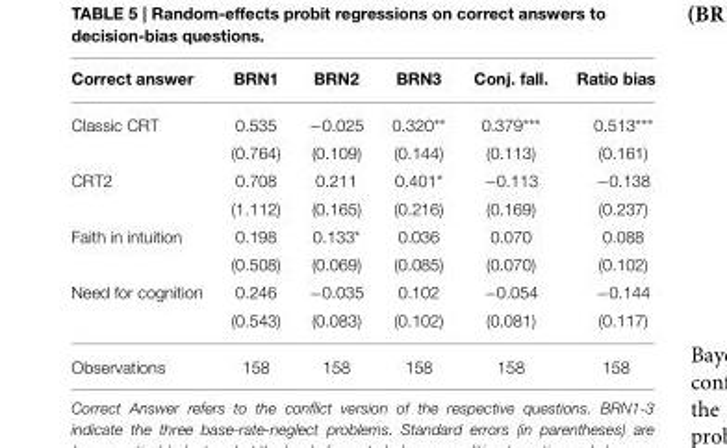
<table><thead><tr><td>Correct answer</td><td>BRN1</td><td>BRN2</td><td>BRN3</td><td>Conj. fall.</td><td>Ratio bias</td></tr></thead><tbody><tr><td rowspan="2">Classic CRT</td><td>0.535</td><td>−0.025</td><td>0.320**</td><td>0.379***</td><td>0.513***</td></tr><tr><td>(0.764)</td><td>(0.109)</td><td>(0.144)</td><td>(0.113)</td><td>(0.161)</td></tr><tr><td rowspan="2">CRT2</td><td>0.708</td><td>0.211</td><td>0.401*</td><td>−0.113</td><td>−0.138</td></tr><tr><td>(1.112)</td><td>(0.165)</td><td>(0.216)</td><td>(0.169)</td><td>(0.237)</td></tr><tr><td rowspan="2">Faith in intuition</td><td>0.198</td><td>0.133*</td><td>0.036</td><td>0.070</td><td>0.088</td></tr><tr><td>(0.508)</td><td>(0.069)</td><td>(0.085)</td><td>(0.070)</td><td>(0.102)</td></tr><tr><td rowspan="2">Need for cognition</td><td>0.246</td><td>−0.035</td><td>0.102</td><td>−0.054</td><td>−0.144</td></tr><tr><td>(0.543)</td><td>(0.083)</td><td>(0.102)</td><td>(0.081)</td><td>(0.117)</td></tr><tr><td>Observations</td><td>158</td><td>158</td><td>158</td><td>158</td><td>158</td></tr></tbody></table>